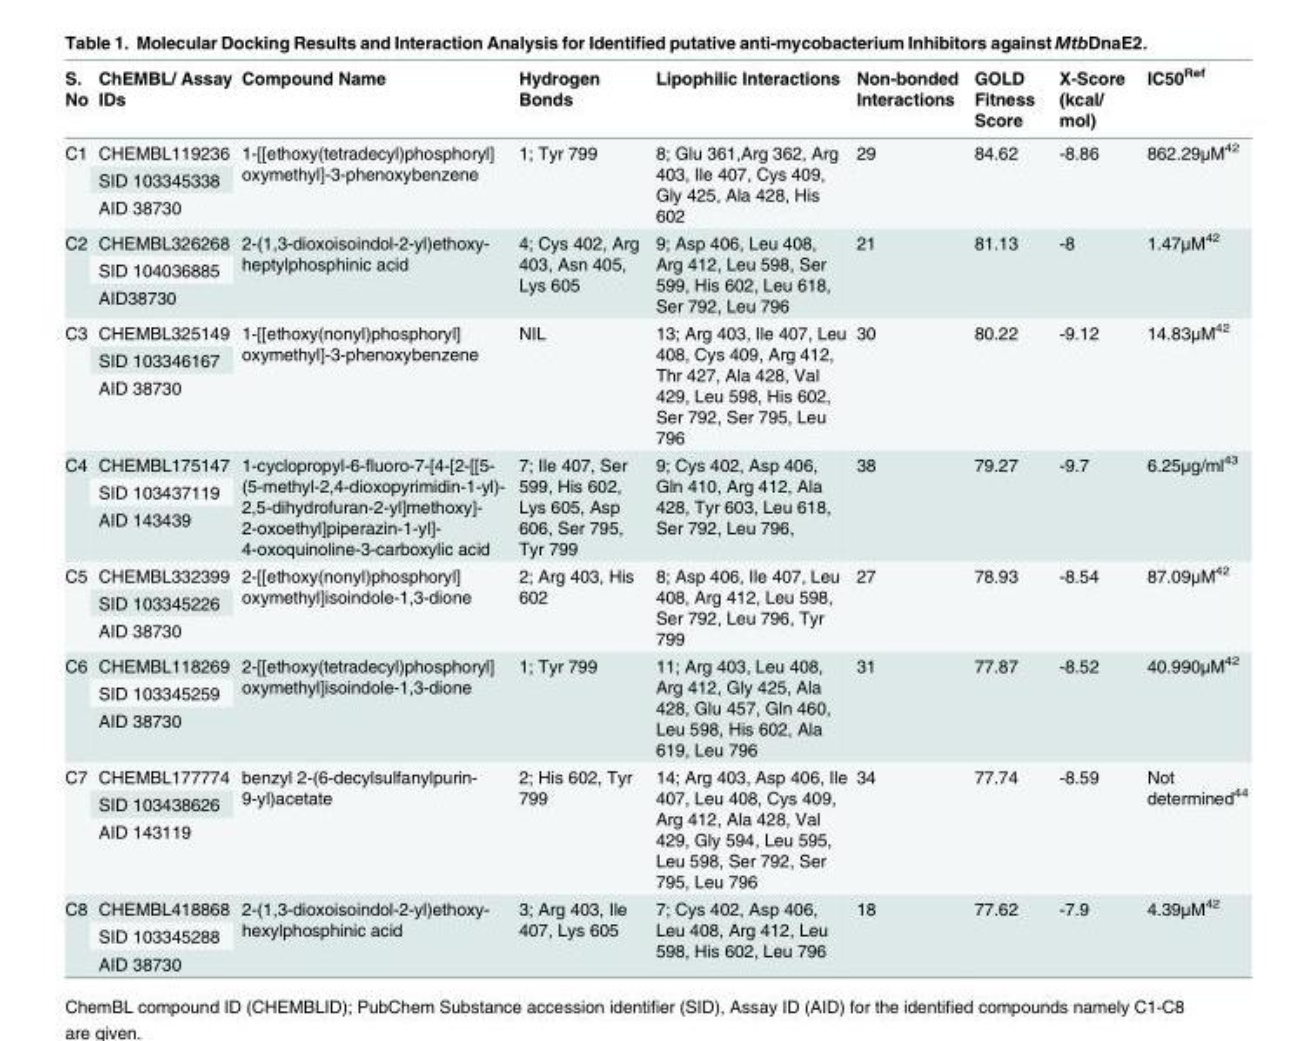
<table><thead><tr><td>S. No</td><td>ChEMBL/ Assay IDs</td><td>Compound Name</td><td>Hydrogen Bonds</td><td>Lipophilic Interactions</td><td>Non-bonded Interactions</td><td>GOLD Fitness Score</td><td>X-Score (kcal/ mol)</td><td>IC50<sup>Ref</sup></td></tr></thead><tbody><tr><td rowspan="3">C1</td><td>CHEMBL119236</td><td rowspan="3">1-[[ethoxy(tetradecyl)phosphoryl] oxymethyl]-3-phenoxybenzene</td><td rowspan="3">1; Tyr 799</td><td rowspan="3">8; Glu 361,Arg 362, Arg 403, Ile 407, Cys 409, Gly 425, Ala 428, His 602</td><td rowspan="3">29</td><td rowspan="3">84.62</td><td rowspan="3">-8.86</td><td rowspan="3">862.29μM<sup>42</sup></td></tr><tr><td>SID 103345338</td></tr><tr><td>AID 38730</td></tr><tr><td rowspan="3">C2</td><td>CHEMBL326268</td><td rowspan="3">2-(1,3-dioxoisoindol-2-yl)ethoxy- heptylphosphinic acid</td><td rowspan="3">4; Cys 402, Arg 403, Asn 405, Lys 605</td><td rowspan="3">9; Asp 406, Leu 408, Arg 412, Leu 598, Ser 599, His 602, Leu 618, Ser 792, Leu 796</td><td rowspan="3">21</td><td rowspan="3">81.13</td><td rowspan="3">-8</td><td rowspan="3">1.47μM<sup>42</sup></td></tr><tr><td>SID 104036885</td></tr><tr><td>AID38730</td></tr><tr><td rowspan="3">C3</td><td>CHEMBL325149</td><td rowspan="3">1-[[ethoxy(nonyl)phosphoryl] oxymethyl]-3-phenoxybenzene</td><td rowspan="3">NIL</td><td rowspan="3">13; Arg 403, Ile 407, Leu 408, Cys 409, Arg 412, Thr 427, Ala 428, Val 429, Leu 598, His 602, Ser 792, Ser 795, Leu 796</td><td rowspan="3">30</td><td rowspan="3">80.22</td><td rowspan="3">-9.12</td><td rowspan="3">14.83μM<sup>42</sup></td></tr><tr><td>SID 103346167</td></tr><tr><td>AID 38730</td></tr><tr><td rowspan="3">C4</td><td>CHEMBL175147</td><td rowspan="3">1-cyclopropyl-6-fluoro-7-[4-[2-[[5- (5-methyl-2,4-dioxopyrimidin-1-yl)- 2,5-dihydrofuran-2-yl]methoxy]- 2-oxoethyl]piperazin-1-yl]- 4-oxoquinoline-3-carboxylic acid</td><td rowspan="3">7; Ile 407, Ser 599, His 602, Lys 605, Asp 606, Ser 795, Tyr 799</td><td rowspan="3">9; Cys 402, Asp 406, Gln 410, Arg 412, Ala 428, Tyr 603, Leu 618, Ser 792, Leu 796,</td><td rowspan="3">38</td><td rowspan="3">79.27</td><td rowspan="3">-9.7</td><td rowspan="3">6.25μg/ml<sup>43</sup></td></tr><tr><td>SID 103437119</td></tr><tr><td>AID 143439</td></tr><tr><td rowspan="3">C5</td><td>CHEMBL332399</td><td rowspan="3">2-[[ethoxy(nonyl)phosphoryl] oxymethyl]isoindole-1,3-dione</td><td rowspan="3">2; Arg 403, His 602</td><td rowspan="3">8; Asp 406, Ile 407, Leu 408, Arg 412, Leu 598, Ser 792, Leu 796, Tyr 799</td><td rowspan="3">27</td><td rowspan="3">78.93</td><td rowspan="3">-8.54</td><td rowspan="3">87.09μM<sup>42</sup></td></tr><tr><td>SID 103345226</td></tr><tr><td>AID 38730</td></tr><tr><td rowspan="3">C6</td><td>CHEMBL118269</td><td rowspan="3">2-[[ethoxy(tetradecyl)phosphoryl] oxymethyl]isoindole-1,3-dione</td><td rowspan="3">1; Tyr 799</td><td rowspan="3">11; Arg 403, Leu 408, Arg 412, Gly 425, Ala 428, Glu 457, Gln 460, Leu 598, His 602, Ala 619, Leu 796</td><td rowspan="3">31</td><td rowspan="3">77.87</td><td rowspan="3">-8.52</td><td rowspan="3">40.990μM<sup>42</sup></td></tr><tr><td>SID 103345259</td></tr><tr><td>AID 38730</td></tr><tr><td rowspan="3">C7</td><td>CHEMBL177774</td><td rowspan="3">benzyl 2-(6-decylsulfanylpurin- 9-yl)acetate</td><td rowspan="3">2; His 602, Tyr 799</td><td rowspan="3">14; Arg 403, Asp 406, Ile 407, Leu 408, Cys 409, Arg 412, Ala 428, Val 429, Gly 594, Leu 595, Leu 598, Ser 792, Ser 795, Leu 796</td><td rowspan="3">34</td><td rowspan="3">77.74</td><td rowspan="3">-8.59</td><td rowspan="3">Not determined<sup>44</sup></td></tr><tr><td>SID 103438626</td></tr><tr><td>AID 143119</td></tr><tr><td rowspan="3">C8</td><td>CHEMBL418868</td><td rowspan="3">2-(1,3-dioxoisoindol-2-yl)ethoxy- hexylphosphinic acid</td><td rowspan="3">3; Arg 403, Ile 407, Lys 605</td><td rowspan="3">7; Cys 402, Asp 406, Leu 408, Arg 412, Leu 598, His 602, Leu 796</td><td rowspan="3">18</td><td rowspan="3">77.62</td><td rowspan="3">-7.9</td><td rowspan="3">4.39μM<sup>42</sup></td></tr><tr><td>SID 103345288</td></tr><tr><td>AID 38730</td></tr></tbody></table>